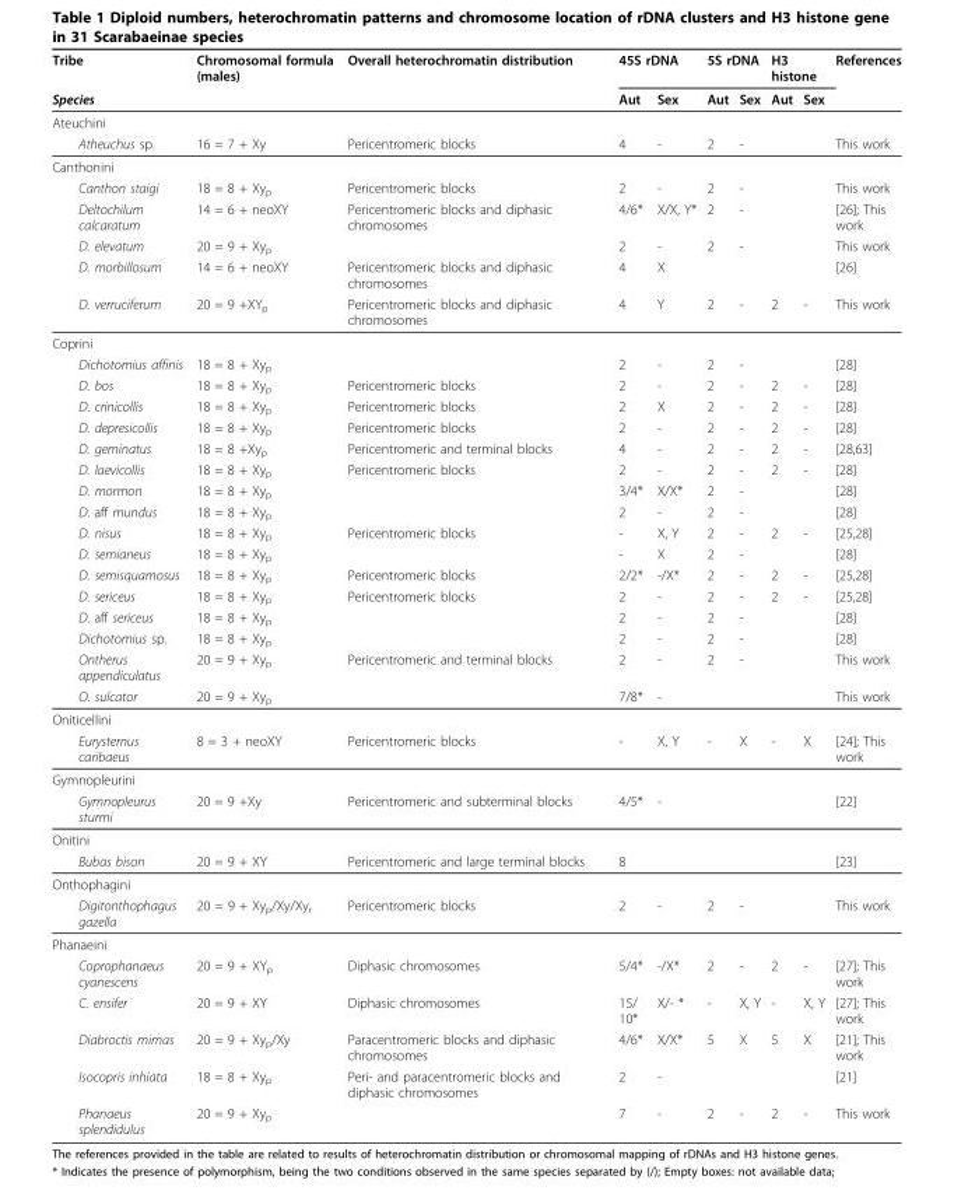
<table><thead><tr><td rowspan="2">Tribe Species</td><td rowspan="2">Chromosomal formula (males)</td><td rowspan="2">Overall heterochromatin distribution</td><td colspan="2">45S rDNA</td><td colspan="2">5S rDNA</td><td colspan="2">H3 histone</td><td rowspan="2">References</td></tr><tr><td>Aut</td><td>Sex</td><td>Aut</td><td>Sex</td><td>Aut</td><td>Sex</td></tr></thead><tbody><tr><td colspan="10">Ateuchini</td></tr><tr><td>Atheuchus sp.</td><td>16 = 7 + Xy</td><td>Pericentromeric blocks</td><td>4</td><td>-</td><td>2</td><td>-</td><td></td><td></td><td>This work</td></tr><tr><td colspan="10">Canthonini</td></tr><tr><td>Canthon staigi</td><td>18 = 8 + Xy<sub>p</sub></td><td>Pericentromeric blocks</td><td>2</td><td>-</td><td>2</td><td>-</td><td></td><td></td><td>This work</td></tr><tr><td>Deltochilum calcaratum</td><td>14 = 6 + neoXY</td><td>Pericentromeric blocks and diphasic chromosomes</td><td>4/6*</td><td>X/X, Y*</td><td>2</td><td>-</td><td></td><td></td><td>[26]; This work</td></tr><tr><td>D. elevatum</td><td>20 = 9 + Xy<sub>p</sub></td><td></td><td>2</td><td>-</td><td>2</td><td>-</td><td></td><td></td><td>This work</td></tr><tr><td>D. morbillosum</td><td>14 = 6 + neoXY</td><td>Pericentromeric blocks and diphasic chromosomes</td><td>4</td><td>X</td><td></td><td></td><td></td><td></td><td>[26]</td></tr><tr><td>D. verruciferum</td><td>20 = 9 +XY<sub>p</sub></td><td>Pericentromeric blocks and diphasic chromosomes</td><td>4</td><td>Y</td><td>2</td><td>-</td><td>2</td><td>-</td><td>This work</td></tr><tr><td colspan="10">Coprini</td></tr><tr><td>Dichotomius affinis</td><td>18 = 8 + Xy<sub>p</sub></td><td></td><td>2</td><td>-</td><td>2</td><td>-</td><td></td><td></td><td>[28]</td></tr><tr><td>D. bos</td><td>18 = 8 + Xy<sub>p</sub></td><td>Pericentromeric blocks</td><td>2</td><td>-</td><td>2</td><td>-</td><td>2</td><td>-</td><td>[28]</td></tr><tr><td>D. crinicollis</td><td>18 = 8 + Xy<sub>p</sub></td><td>Pericentromeric blocks</td><td>2</td><td>X</td><td>2</td><td>-</td><td>2</td><td>-</td><td>[28]</td></tr><tr><td>D. depresicollis</td><td>18 = 8 + Xy<sub>p</sub></td><td>Pericentromeric blocks</td><td>2</td><td>-</td><td>2</td><td>-</td><td>2</td><td>-</td><td>[28]</td></tr><tr><td>D. geminatus</td><td>18 = 8 +Xy<sub>p</sub></td><td>Pericentromeric and terminal blocks</td><td>4</td><td>-</td><td>2</td><td>-</td><td>2</td><td>-</td><td>[28,63]</td></tr><tr><td>D. laevicollis</td><td>18 = 8 + Xy<sub>p</sub></td><td>Pericentromeric blocks</td><td>2</td><td>-</td><td>2</td><td>-</td><td>2</td><td>-</td><td>[28]</td></tr><tr><td>D. mormon</td><td>18 = 8 + Xy<sub>p</sub></td><td></td><td>3/4*</td><td>X/X*</td><td>2</td><td>-</td><td></td><td></td><td>[28]</td></tr><tr><td>D. aff mundus</td><td>18 = 8 + Xy<sub>p</sub></td><td></td><td>2</td><td>-</td><td>2</td><td>-</td><td></td><td></td><td>[28]</td></tr><tr><td>D. nisus</td><td>18 = 8 + Xy<sub>p</sub></td><td>Pericentromeric blocks</td><td>-</td><td>X, Y</td><td>2</td><td>-</td><td>2</td><td>-</td><td>[25,28]</td></tr><tr><td>D. semianeus</td><td>18 = 8 + Xy<sub>p</sub></td><td></td><td>-</td><td>X</td><td>2</td><td>-</td><td></td><td></td><td>[28]</td></tr><tr><td>D. semisquamosus</td><td>18 = 8 + Xy<sub>p</sub></td><td>Pericentromeric blocks</td><td>2/2*</td><td>-/X*</td><td>2</td><td>-</td><td>2</td><td>-</td><td>[25,28]</td></tr><tr><td>D. sericeus</td><td>18 = 8 + Xy<sub>p</sub></td><td>Pericentromeric blocks</td><td>2</td><td>-</td><td>2</td><td>-</td><td>2</td><td>-</td><td>[25,28]</td></tr><tr><td>D. aff sericeus</td><td>18 = 8 + Xy<sub>p</sub></td><td></td><td>2</td><td>-</td><td>2</td><td>-</td><td></td><td></td><td>[28]</td></tr><tr><td>Dichotomius sp.</td><td>18 = 8 + Xy<sub>p</sub></td><td></td><td>2</td><td>-</td><td>2</td><td>-</td><td></td><td></td><td>[28]</td></tr><tr><td>Ontherus appendiculatus</td><td>20 = 9 + Xy<sub>p</sub></td><td>Pericentromeric and terminal blocks</td><td>2</td><td>-</td><td>2</td><td>-</td><td></td><td></td><td>This work</td></tr><tr><td>O. sulcator</td><td>20 = 9 + Xy<sub>p</sub></td><td></td><td>7/8*</td><td>-</td><td></td><td></td><td></td><td></td><td>This work</td></tr><tr><td colspan="10">Oniticellini</td></tr><tr><td>Eurysternus caribaeus</td><td>8 = 3 + neoXY</td><td>Pericentromeric blocks</td><td>-</td><td>X, Y</td><td>-</td><td>X</td><td>-</td><td>X</td><td>[24]; This work</td></tr><tr><td colspan="10">Gymnopleurini</td></tr><tr><td>Gymnopleurus sturmi</td><td>20 = 9 +Xy</td><td>Pericentromeric and subterminal blocks</td><td>4/5*</td><td>-</td><td></td><td></td><td></td><td></td><td>[22]</td></tr><tr><td colspan="10">Onitini</td></tr><tr><td>Bubas bison</td><td>20 = 9 + XY</td><td>Pericentromeric and large terminal blocks</td><td>8</td><td></td><td></td><td></td><td></td><td></td><td>[23]</td></tr><tr><td colspan="10">Onthophagini</td></tr><tr><td>Digitonthophagus gazella</td><td>20 = 9 + Xy<sub>p</sub>/Xy/Xy<sub>r</sub></td><td>Pericentromeric blocks</td><td>2</td><td>-</td><td>2</td><td>-</td><td></td><td></td><td>This work</td></tr><tr><td colspan="10">Phanaeini</td></tr><tr><td>Coprophanaeus cyanescens</td><td>20 = 9 + XY<sub>p</sub></td><td>Diphasic chromosomes</td><td>5/4*</td><td>-/X*</td><td>2</td><td>-</td><td>2</td><td>-</td><td>[27]; This work</td></tr><tr><td>C. ensifer</td><td>20 = 9 + XY</td><td>Diphasic chromosomes</td><td>15/ 10*</td><td>X/- *</td><td>-</td><td>X, Y</td><td>-</td><td>X, Y</td><td>[27]; This work</td></tr><tr><td>Diabroctis mimas</td><td>20 = 9 + Xy<sub>p</sub>/Xy</td><td>Paracentromeric blocks and diphasic chromosomes</td><td>4/6*</td><td>X/X*</td><td>5</td><td>X</td><td>5</td><td>X</td><td>[21]; This work</td></tr><tr><td>Isocopris inhiata</td><td>18 = 8 + Xy<sub>p</sub></td><td>Peri- and paracentromeric blocks and diphasic chromosomes</td><td>2</td><td>-</td><td></td><td></td><td></td><td></td><td>[21]</td></tr><tr><td>Phanaeus splendidulus</td><td>20 = 9 + Xy<sub>p</sub></td><td></td><td>7</td><td>-</td><td>2</td><td>-</td><td>2</td><td>-</td><td>This work</td></tr></tbody></table>